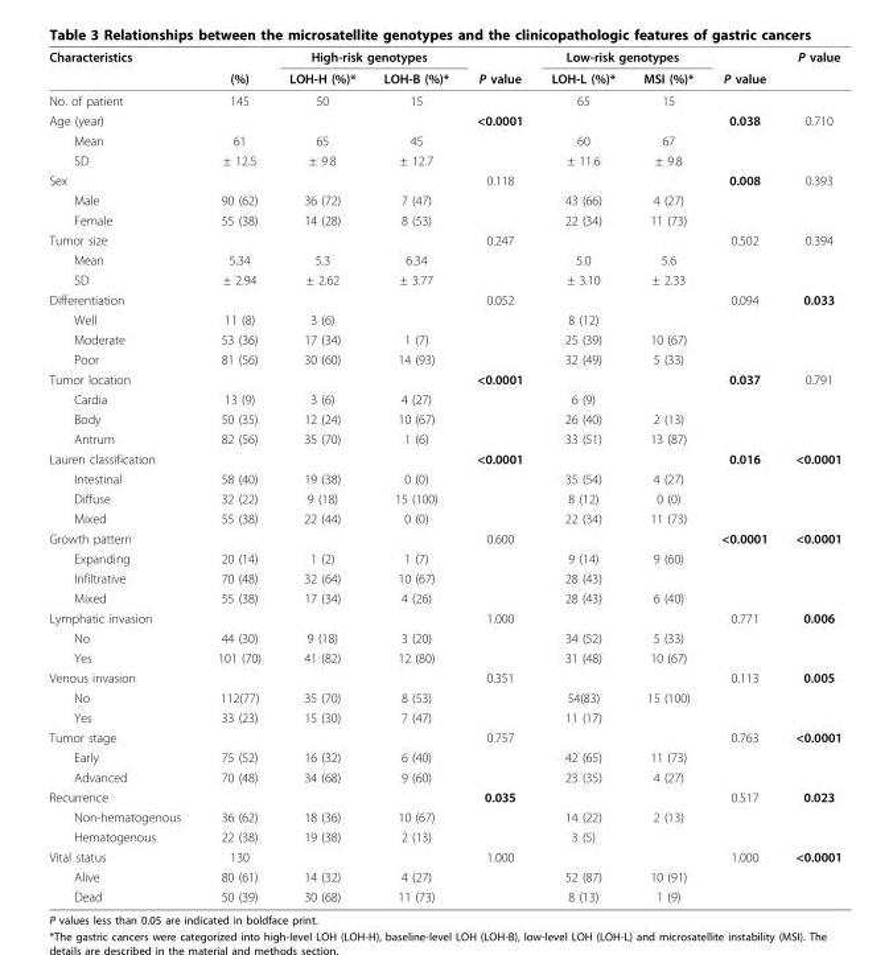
<table><thead><tr><td rowspan="2">Characteristics</td><td rowspan="2">(%)</td><td colspan="2">High-risk genotypes</td><td rowspan="2">P value</td><td colspan="2">Low-risk genotypes</td><td rowspan="2">P value</td><td rowspan="2">P value</td></tr><tr><td>LOH-H (%)*</td><td>LOH-B (%)*</td><td>LOH-L (%)*</td><td>MSI (%)*</td></tr></thead><tbody><tr><td>No. of patient</td><td>145</td><td>50</td><td>15</td><td></td><td>65</td><td>15</td><td></td><td></td></tr><tr><td>Age (year)</td><td></td><td></td><td></td><td>&lt;0.0001</td><td></td><td></td><td>0.038</td><td>0.710</td></tr><tr><td>Mean</td><td>61</td><td>65</td><td>45</td><td></td><td>60</td><td>67</td><td></td><td></td></tr><tr><td>SD</td><td>± 12.5</td><td>± 9.8</td><td>± 12.7</td><td></td><td>± 11.6</td><td>± 9.8</td><td></td><td></td></tr><tr><td>Sex</td><td></td><td></td><td></td><td>0.118</td><td></td><td></td><td>0.008</td><td>0.393</td></tr><tr><td>Male</td><td>90 (62)</td><td>36 (72)</td><td>7 (47)</td><td></td><td>43 (66)</td><td>4 (27)</td><td></td><td></td></tr><tr><td>Female</td><td>55 (38)</td><td>14 (28)</td><td>8 (53)</td><td></td><td>22 (34)</td><td>11 (73)</td><td></td><td></td></tr><tr><td>Tumor size</td><td></td><td></td><td></td><td>0.247</td><td></td><td></td><td>0.502</td><td>0.394</td></tr><tr><td>Mean</td><td>5.34</td><td>5.3</td><td>6.34</td><td></td><td>5.0</td><td>5.6</td><td></td><td></td></tr><tr><td>SD</td><td>± 2.94</td><td>± 2.62</td><td>± 3.77</td><td></td><td>± 3.10</td><td>± 2.33</td><td></td><td></td></tr><tr><td>Differentiation</td><td></td><td></td><td></td><td>0.052</td><td></td><td></td><td>0.094</td><td>0.033</td></tr><tr><td>Well</td><td>11 (8)</td><td>3 (6)</td><td></td><td></td><td>8 (12)</td><td></td><td></td><td></td></tr><tr><td>Moderate</td><td>53 (36)</td><td>17 (34)</td><td>1 (7)</td><td></td><td>25 (39)</td><td>10 (67)</td><td></td><td></td></tr><tr><td>Poor</td><td>81 (56)</td><td>30 (60)</td><td>14 (93)</td><td></td><td>32 (49)</td><td>5 (33)</td><td></td><td></td></tr><tr><td>Tumor location</td><td></td><td></td><td></td><td>&lt;0.0001</td><td></td><td></td><td>0.037</td><td>0.791</td></tr><tr><td>Cardia</td><td>13 (9)</td><td>3 (6)</td><td>4 (27)</td><td></td><td>6 (9)</td><td></td><td></td><td></td></tr><tr><td>Body</td><td>50 (35)</td><td>12 (24)</td><td>10 (67)</td><td></td><td>26 (40)</td><td>2 (13)</td><td></td><td></td></tr><tr><td>Antrum</td><td>82 (56)</td><td>35 (70)</td><td>1 (6)</td><td></td><td>33 (51)</td><td>13 (87)</td><td></td><td></td></tr><tr><td>Lauren classification</td><td></td><td></td><td></td><td>&lt;0.0001</td><td></td><td></td><td>0.016</td><td>&lt;0.0001</td></tr><tr><td>Intestinal</td><td>58 (40)</td><td>19 (38)</td><td>0 (0)</td><td></td><td>35 (54)</td><td>4 (27)</td><td></td><td></td></tr><tr><td>Diffuse</td><td>32 (22)</td><td>9 (18)</td><td>15 (100)</td><td></td><td>8 (12)</td><td>0 (0)</td><td></td><td></td></tr><tr><td>Mixed</td><td>55 (38)</td><td>22 (44)</td><td>0 (0)</td><td></td><td>22 (34)</td><td>11 (73)</td><td></td><td></td></tr><tr><td>Growth pattern</td><td></td><td></td><td></td><td>0.600</td><td></td><td></td><td>&lt;0.0001</td><td>&lt;0.0001</td></tr><tr><td>Expanding</td><td>20 (14)</td><td>1 (2)</td><td>1 (7)</td><td></td><td>9 (14)</td><td>9 (60)</td><td></td><td></td></tr><tr><td>Infiltrative</td><td>70 (48)</td><td>32 (64)</td><td>10 (67)</td><td></td><td>28 (43)</td><td></td><td></td><td></td></tr><tr><td>Mixed</td><td>55 (38)</td><td>17 (34)</td><td>4 (26)</td><td></td><td>28 (43)</td><td>6 (40)</td><td></td><td></td></tr><tr><td>Lymphatic invasion</td><td></td><td></td><td></td><td>1.000</td><td></td><td></td><td>0.771</td><td>0.006</td></tr><tr><td>No</td><td>44 (30)</td><td>9 (18)</td><td>3 (20)</td><td></td><td>34 (52)</td><td>5 (33)</td><td></td><td></td></tr><tr><td>Yes</td><td>101 (70)</td><td>41 (82)</td><td>12 (80)</td><td></td><td>31 (48)</td><td>10 (67)</td><td></td><td></td></tr><tr><td>Venous invasion</td><td></td><td></td><td></td><td>0.351</td><td></td><td></td><td>0.113</td><td>0.005</td></tr><tr><td>No</td><td>112(77)</td><td>35 (70)</td><td>8 (53)</td><td></td><td>54(83)</td><td>15 (100)</td><td></td><td></td></tr><tr><td>Yes</td><td>33 (23)</td><td>15 (30)</td><td>7 (47)</td><td></td><td>11 (17)</td><td></td><td></td><td></td></tr><tr><td>Tumor stage</td><td></td><td></td><td></td><td>0.757</td><td></td><td></td><td>0.763</td><td>&lt;0.0001</td></tr><tr><td>Early</td><td>75 (52)</td><td>16 (32)</td><td>6 (40)</td><td></td><td>42 (65)</td><td>11 (73)</td><td></td><td></td></tr><tr><td>Advanced</td><td>70 (48)</td><td>34 (68)</td><td>9 (60)</td><td></td><td>23 (35)</td><td>4 (27)</td><td></td><td></td></tr><tr><td>Recurrence</td><td></td><td></td><td></td><td>0.035</td><td></td><td></td><td>0.517</td><td>0.023</td></tr><tr><td>Non-hematogenous</td><td>36 (62)</td><td>18 (36)</td><td>10 (67)</td><td></td><td>14 (22)</td><td>2 (13)</td><td></td><td></td></tr><tr><td>Hematogenous</td><td>22 (38)</td><td>19 (38)</td><td>2 (13)</td><td></td><td>3 (5)</td><td></td><td></td><td></td></tr><tr><td>Vital status</td><td>130</td><td></td><td></td><td>1.000</td><td></td><td></td><td>1.000</td><td>&lt;0.0001</td></tr><tr><td>Alive</td><td>80 (61)</td><td>14 (32)</td><td>4 (27)</td><td></td><td>52 (87)</td><td>10 (91)</td><td></td><td></td></tr><tr><td>Dead</td><td>50 (39)</td><td>30 (68)</td><td>11 (73)</td><td></td><td>8 (13)</td><td>1 (9)</td><td></td><td></td></tr></tbody></table>